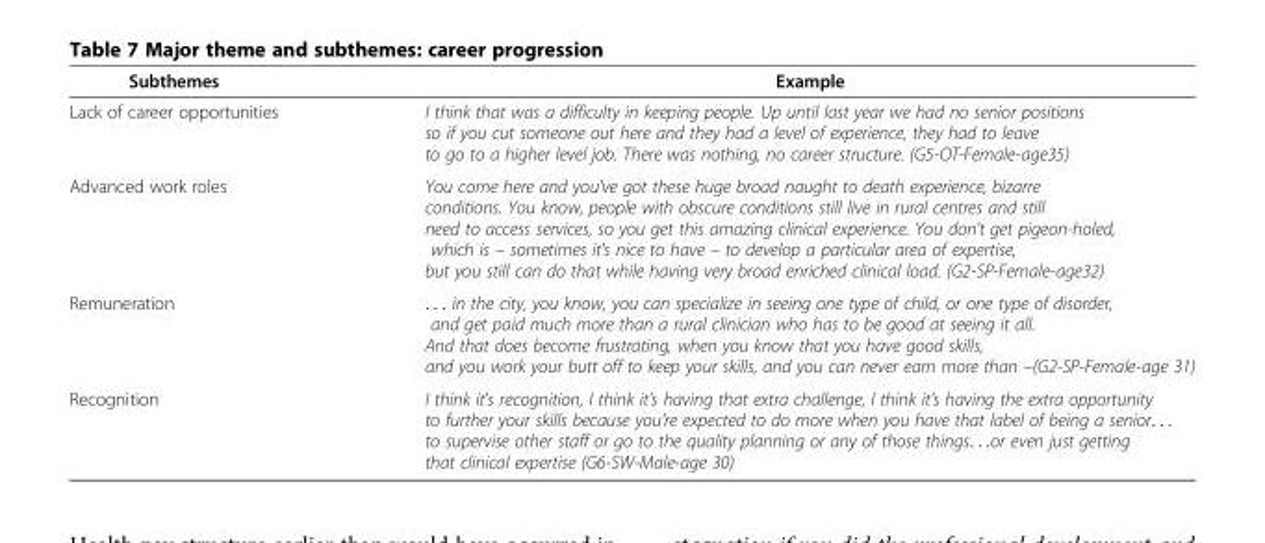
<table><thead><tr><td>Subthemes</td><td>Example</td></tr></thead><tbody><tr><td>Lack of career opportunities</td><td>I think that was a difficulty in keeping people. Up until last year we had no senior positions so if you cut someone out here and they had a level of experience, they had to leave to go to a higher level job. There was nothing, no career structure. (G5-OT-Female-age35)</td></tr><tr><td>Advanced work roles</td><td>You come here and you&#x27;ve got these huge broad naught to death experience, bizarre conditions. You know, people with obscure conditions still live in rural centres and still need to access services, so you get this amazing clinical experience. You don&#x27;t get pigeon-holed, which is – sometimes it&#x27;s nice to have – to develop a particular area of expertise, but you still can do that while having very broad enriched clinical load. (G2-SP-Female-age32)</td></tr><tr><td>Remuneration</td><td>. . . in the city, you know, you can specialize in seeing one type of child, or one type of disorder, and get paid much more than a rural clinician who has to be good at seeing it all. And that does become frustrating, when you know that you have good skills, and you work your butt off to keep your skills, and you can never earn more than –(G2-SP-Female-age 31)</td></tr><tr><td>Recognition</td><td>I think it&#x27;s recognition, I think it&#x27;s having that extra challenge, I think it&#x27;s having the extra opportunity to further your skills because you&#x27;re expected to do more when you have that label of being a senior. . . to supervise other staff or go to the quality planning or any of those things. . .or even just getting that clinical expertise (G6-SW-Male-age 30)</td></tr></tbody></table>